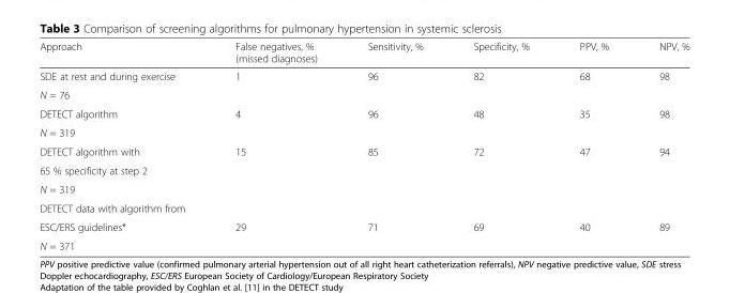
<table><thead><tr><td>Approach</td><td>False negatives, % (missed diagnoses)</td><td>Sensitivity, %</td><td>Specificity, %</td><td>PPV, %</td><td>NPV, %</td></tr></thead><tbody><tr><td>SDE at rest and during exercise</td><td>1</td><td>96</td><td>82</td><td>68</td><td>98</td></tr><tr><td colspan="6">N = 76</td></tr><tr><td>DETECT algorithm</td><td>4</td><td>96</td><td>48</td><td>35</td><td>98</td></tr><tr><td colspan="6">N = 319</td></tr><tr><td>DETECT algorithm with</td><td>15</td><td>85</td><td>72</td><td>47</td><td>94</td></tr><tr><td colspan="6">65 % specificity at step 2</td></tr><tr><td colspan="6">N = 319</td></tr><tr><td colspan="6">DETECT data with algorithm from</td></tr><tr><td>ESC/ERS guidelines*</td><td>29</td><td>71</td><td>69</td><td>40</td><td>89</td></tr><tr><td>N = 371</td><td></td><td></td><td></td><td></td><td></td></tr></tbody></table>